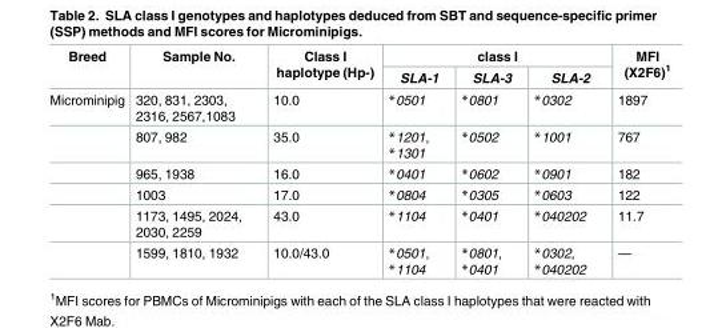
<table><thead><tr><td rowspan="2">Breed</td><td rowspan="2">Sample No.</td><td rowspan="2">Class I haplotype (Hp-)</td><td colspan="3">class I</td><td rowspan="2">MFI (X2F6)<sup>1</sup></td></tr><tr><td>SLA-1</td><td>SLA-3</td><td>SLA-2</td></tr></thead><tbody><tr><td rowspan="6">Microminipig</td><td>320, 831, 2303, 2316, 2567,1083</td><td>10.0</td><td>*0501</td><td>*0801</td><td>*0302</td><td>1897</td></tr><tr><td>807, 982</td><td>35.0</td><td>*1201, *1301</td><td>*0502</td><td>*1001</td><td>767</td></tr><tr><td>965, 1938</td><td>16.0</td><td>*0401</td><td>*0602</td><td>*0901</td><td>182</td></tr><tr><td>1003</td><td>17.0</td><td>*0804</td><td>*0305</td><td>*0603</td><td>122</td></tr><tr><td>1173, 1495, 2024, 2030, 2259</td><td>43.0</td><td>*1104</td><td>*0401</td><td>*040202</td><td>11.7</td></tr><tr><td>1599, 1810, 1932</td><td>10.0/43.0</td><td>*0501, *1104</td><td>*0801, *0401</td><td>*0302, *040202</td><td>—</td></tr></tbody></table>